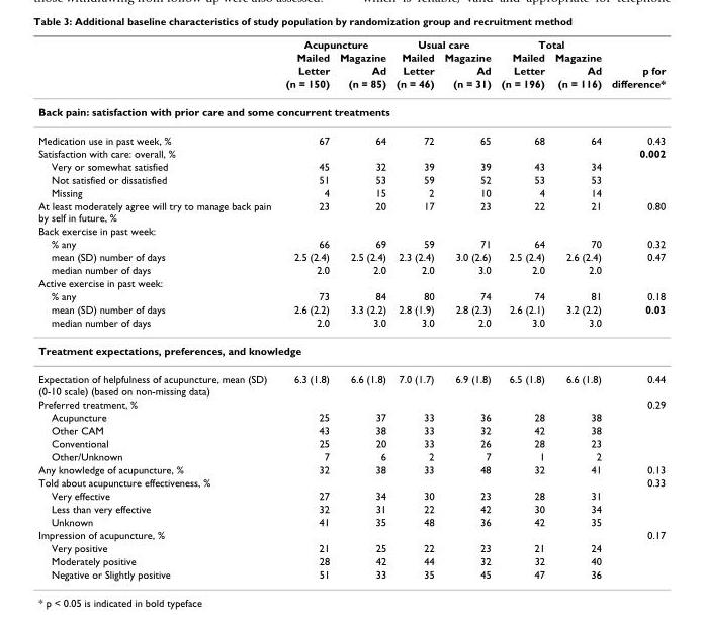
<table><thead><tr><td rowspan="4"></td><td colspan="2">Acupuncture</td><td colspan="2">Usual care</td><td colspan="2">Total</td><td rowspan="4">p for difference*</td></tr><tr><td rowspan="3">Mailed Letter (n = 150)</td><td rowspan="3">Magazine Ad (n = 85)</td><td rowspan="3">Mailed Letter (n = 46)</td><td rowspan="3">Magazine Ad (n = 31)</td><td rowspan="3">Mailed Letter (n = 196)</td><td rowspan="3">Magazine Ad (n = 116)</td></tr><tr></tr><tr></tr></thead><tbody><tr><td colspan="8">Back pain: satisfaction with prior care and some concurrent treatments</td></tr><tr><td>Medication use in past week, %</td><td>67</td><td>64</td><td>72</td><td>65</td><td>68</td><td>64</td><td>0.43</td></tr><tr><td>Satisfaction with care: overall, %</td><td></td><td></td><td></td><td></td><td></td><td></td><td>0.002</td></tr><tr><td>Very or somewhat satisfied</td><td>45</td><td>32</td><td>39</td><td>39</td><td>43</td><td>34</td><td></td></tr><tr><td>Not satisfied or dissatisfied</td><td>51</td><td>53</td><td>59</td><td>52</td><td>53</td><td>53</td><td></td></tr><tr><td>Missing</td><td>4</td><td>15</td><td>2</td><td>10</td><td>4</td><td>14</td><td></td></tr><tr><td>At least moderately agree will try to manage back pain by self in future, %</td><td>23</td><td>20</td><td>17</td><td>23</td><td>22</td><td>21</td><td>0.80</td></tr><tr><td colspan="8">Back exercise in past week:</td></tr><tr><td>% any</td><td>66</td><td>69</td><td>59</td><td>71</td><td>64</td><td>70</td><td>0.32</td></tr><tr><td>mean (SD) number of days</td><td>2.5 (2.4)</td><td>2.5 (2.4)</td><td>2.3 (2.4)</td><td>3.0 (2.6)</td><td>2.5 (2.4)</td><td>2.6 (2.4)</td><td>0.47</td></tr><tr><td>median number of days</td><td>2.0</td><td>2.0</td><td>2.0</td><td>3.0</td><td>2.0</td><td>2.0</td><td></td></tr><tr><td colspan="8">Active exercise in past week:</td></tr><tr><td>% any</td><td>73</td><td>84</td><td>80</td><td>74</td><td>74</td><td>81</td><td>0.18</td></tr><tr><td>mean (SD) number of days</td><td>2.6 (2.2)</td><td>3.3 (2.2)</td><td>2.8 (1.9)</td><td>2.8 (2.3)</td><td>2.6 (2.1)</td><td>3.2 (2.2)</td><td>0.03</td></tr><tr><td>median number of days</td><td>2.0</td><td>3.0</td><td>3.0</td><td>2.0</td><td>3.0</td><td>3.0</td><td></td></tr><tr><td colspan="8">Treatment expectations, preferences, and knowledge</td></tr><tr><td>Expectation of helpfulness of acupuncture, mean (SD) (0-10 scale) (based on non-missing data)</td><td>6.3 (1.8)</td><td>6.6 (1.8)</td><td>7.0 (1.7)</td><td>6.9 (1.8)</td><td>6.5 (1.8)</td><td>6.6 (1.8)</td><td>0.44</td></tr><tr><td>Preferred treatment, %</td><td></td><td></td><td></td><td></td><td></td><td></td><td>0.29</td></tr><tr><td>Acupuncture</td><td>25</td><td>37</td><td>33</td><td>36</td><td>28</td><td>38</td><td></td></tr><tr><td>Other CAM</td><td>43</td><td>38</td><td>33</td><td>32</td><td>42</td><td>38</td><td></td></tr><tr><td>Conventional</td><td>25</td><td>20</td><td>33</td><td>26</td><td>28</td><td>23</td><td></td></tr><tr><td>Other/Unknown</td><td>7</td><td>6</td><td>2</td><td>7</td><td>1</td><td>2</td><td></td></tr><tr><td>Any knowledge of acupuncture, %</td><td>32</td><td>38</td><td>33</td><td>48</td><td>32</td><td>41</td><td>0.13</td></tr><tr><td>Told about acupuncture effectiveness, %</td><td></td><td></td><td></td><td></td><td></td><td></td><td>0.33</td></tr><tr><td>Very effective</td><td>27</td><td>34</td><td>30</td><td>23</td><td>28</td><td>31</td><td></td></tr><tr><td>Less than very effective</td><td>32</td><td>31</td><td>22</td><td>42</td><td>30</td><td>34</td><td></td></tr><tr><td>Unknown</td><td>41</td><td>35</td><td>48</td><td>36</td><td>42</td><td>35</td><td></td></tr><tr><td>Impression of acupuncture, %</td><td></td><td></td><td></td><td></td><td></td><td></td><td>0.17</td></tr><tr><td>Very positive</td><td>21</td><td>25</td><td>22</td><td>23</td><td>21</td><td>24</td><td></td></tr><tr><td>Moderately positive</td><td>28</td><td>42</td><td>44</td><td>32</td><td>32</td><td>40</td><td></td></tr><tr><td>Negative or Slightly positive</td><td>51</td><td>33</td><td>35</td><td>45</td><td>47</td><td>36</td><td></td></tr></tbody></table>